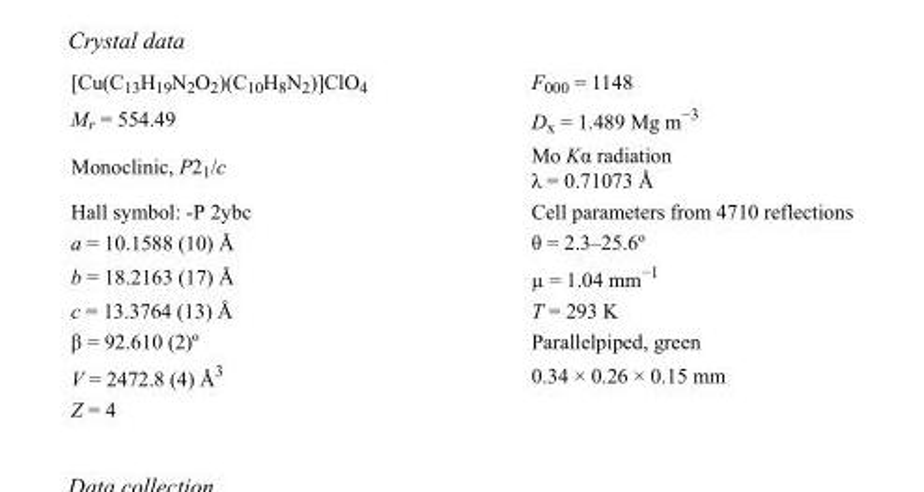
<table><tbody><tr><td>[Cu(C<sub>13</sub>H<sub>19</sub>N<sub>2</sub>O<sub>2</sub>)(C<sub>10</sub>H<sub>8</sub>N<sub>2</sub>)]ClO<sub>4</sub></td><td>F000 = 1148</td></tr><tr><td>M<sub>r</sub> = 554.49</td><td>D<sub>x</sub> = 1.489 Mg m<sup>−3</sup></td></tr><tr><td>Monoclinic, P2<sub>1</sub>/c</td><td>Mo Kα radiation λ = 0.71073 Å</td></tr><tr><td>Hall symbol: -P 2ybc</td><td>Cell parameters from 4710 reflections</td></tr><tr><td>a = 10.1588 (10) Å</td><td>θ = 2.3–25.6º</td></tr><tr><td>b = 18.2163 (17) Å</td><td>µ = 1.04 mm<sup>−1</sup></td></tr><tr><td>c = 13.3764 (13) Å</td><td>T = 293 K</td></tr><tr><td>β = 92.610 (2)º</td><td>Parallelpiped, green</td></tr><tr><td>V = 2472.8 (4) Å<sup>3</sup></td><td>0.34 × 0.26 × 0.15 mm</td></tr><tr><td>Z = 4</td><td></td></tr></tbody></table>